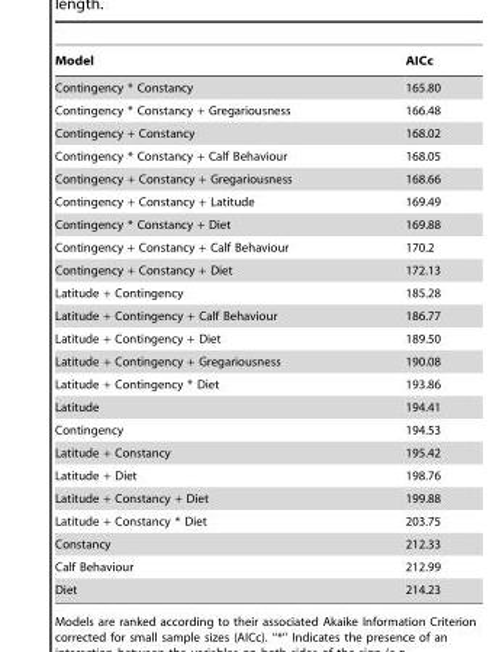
<table><thead><tr><td>Model</td><td>AICc</td></tr></thead><tbody><tr><td>Contingency * Constancy</td><td>165.80</td></tr><tr><td>Contingency * Constancy + Gregariousness</td><td>166.48</td></tr><tr><td>Contingency + Constancy</td><td>168.02</td></tr><tr><td>Contingency * Constancy + Calf Behaviour</td><td>168.05</td></tr><tr><td>Contingency + Constancy + Gregariousness</td><td>168.66</td></tr><tr><td>Contingency + Constancy + Latitude</td><td>169.49</td></tr><tr><td>Contingency * Constancy + Diet</td><td>169.88</td></tr><tr><td>Contingency + Constancy + Calf Behaviour</td><td>170.2</td></tr><tr><td>Contingency + Constancy + Diet</td><td>172.13</td></tr><tr><td>Latitude + Contingency</td><td>185.28</td></tr><tr><td>Latitude + Contingency + Calf Behaviour</td><td>186.77</td></tr><tr><td>Latitude + Contingency + Diet</td><td>189.50</td></tr><tr><td>Latitude + Contingency + Gregariousness</td><td>190.08</td></tr><tr><td>Latitude + Contingency * Diet</td><td>193.86</td></tr><tr><td>Latitude</td><td>194.41</td></tr><tr><td>Contingency</td><td>194.53</td></tr><tr><td>Latitude + Constancy</td><td>195.42</td></tr><tr><td>Latitude + Diet</td><td>198.76</td></tr><tr><td>Latitude + Constancy + Diet</td><td>199.88</td></tr><tr><td>Latitude + Constancy * Diet</td><td>203.75</td></tr><tr><td>Constancy</td><td>212.33</td></tr><tr><td>Calf Behaviour</td><td>212.99</td></tr><tr><td>Diet</td><td>214.23</td></tr></tbody></table>